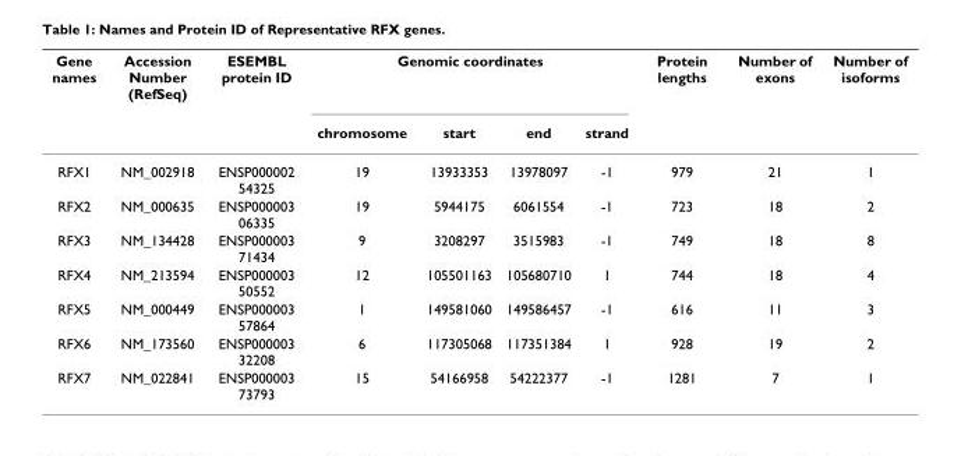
<table><thead><tr><td rowspan="2">Gene names</td><td rowspan="2">Accession Number (RefSeq)</td><td rowspan="2">ESEMBL protein ID</td><td colspan="4">Genomic coordinates</td><td rowspan="2">Protein lengths</td><td rowspan="2">Number of exons</td><td rowspan="2">Number of isoforms</td></tr><tr><td>chromosome</td><td>start</td><td>end</td><td>strand</td></tr></thead><tbody><tr><td>RFX1</td><td>NM_002918</td><td>ENSP000002 54325</td><td>19</td><td>13933353</td><td>13978097</td><td>-1</td><td>979</td><td>21</td><td>1</td></tr><tr><td>RFX2</td><td>NM_000635</td><td>ENSP000003 06335</td><td>19</td><td>5944175</td><td>6061554</td><td>-1</td><td>723</td><td>18</td><td>2</td></tr><tr><td>RFX3</td><td>NM_134428</td><td>ENSP000003 71434</td><td>9</td><td>3208297</td><td>3515983</td><td>-1</td><td>749</td><td>18</td><td>8</td></tr><tr><td>RFX4</td><td>NM_213594</td><td>ENSP000003 50552</td><td>12</td><td>105501163</td><td>105680710</td><td>1</td><td>744</td><td>18</td><td>4</td></tr><tr><td>RFX5</td><td>NM_000449</td><td>ENSP000003 57864</td><td>1</td><td>149581060</td><td>149586457</td><td>-1</td><td>616</td><td>11</td><td>3</td></tr><tr><td>RFX6</td><td>NM_173560</td><td>ENSP000003 32208</td><td>6</td><td>117305068</td><td>117351384</td><td>1</td><td>928</td><td>19</td><td>2</td></tr><tr><td>RFX7</td><td>NM_022841</td><td>ENSP000003 73793</td><td>15</td><td>54166958</td><td>54222377</td><td>-1</td><td>1281</td><td>7</td><td>1</td></tr></tbody></table>